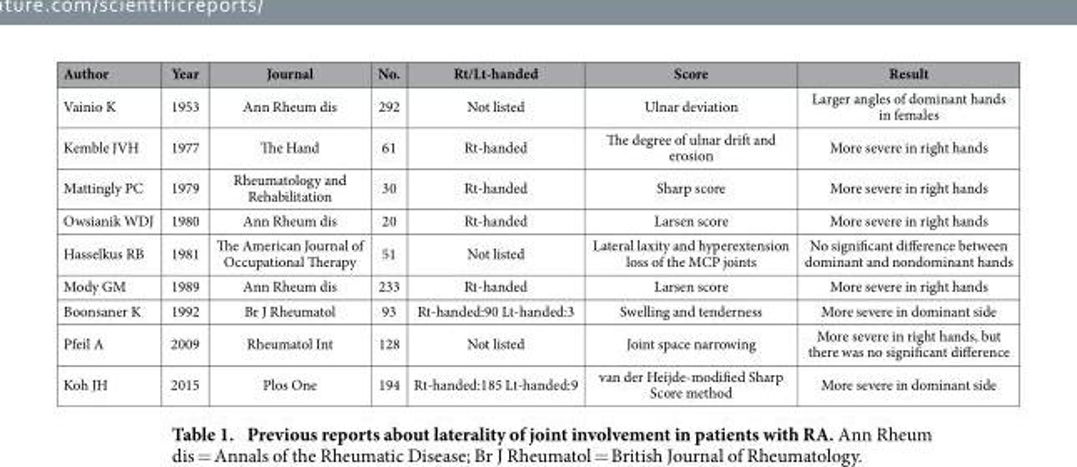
<table><thead><tr><td>Author</td><td>Year</td><td>Journal</td><td>No.</td><td>Rt/Lt-handed</td><td>Score</td><td>Result</td></tr></thead><tbody><tr><td>Vainio K</td><td>1953</td><td>Ann Rheum dis</td><td>292</td><td>Not listed</td><td>Ulnar deviation</td><td>Larger angles of dominant hands in females</td></tr><tr><td>Kemble JVH</td><td>1977</td><td>The Hand</td><td>61</td><td>Rt-handed</td><td>The degree of ulnar drift and erosion</td><td>More severe in right hands</td></tr><tr><td>Mattingly PC</td><td>1979</td><td>Rheumatology and Rehabilitation</td><td>30</td><td>Rt-handed</td><td>Sharp score</td><td>More severe in right hands</td></tr><tr><td>Owsianik WDJ</td><td>1980</td><td>Ann Rheum dis</td><td>20</td><td>Rt-handed</td><td>Larsen score</td><td>More severe in right hands</td></tr><tr><td>Hasselkus RB</td><td>1981</td><td>The American Journal of Occupational Therapy</td><td>51</td><td>Not listed</td><td>Lateral laxity and hyperextension loss of the MCP joints</td><td>No significant difference between dominant and nondominant hands</td></tr><tr><td>Mody GM</td><td>1989</td><td>Ann Rheum dis</td><td>233</td><td>Rt-handed</td><td>Larsen score</td><td>More severe in right hands</td></tr><tr><td>Boonsaner K</td><td>1992</td><td>Br J Rheumatol</td><td>93</td><td>Rt-handed:90 Lt-handed:3</td><td>Swelling and tenderness</td><td>More severe in dominant side</td></tr><tr><td>Pfeil A</td><td>2009</td><td>Rheumatol Int</td><td>128</td><td>Not listed</td><td>Joint space narrowing</td><td>More severe in right hands, but there was no significant difference</td></tr><tr><td>Koh JH</td><td>2015</td><td>Plos One</td><td>194</td><td>Rt-handed:185 Lt-handed:9</td><td>van der Heijde-modified Sharp Score method</td><td>More severe in dominant side</td></tr></tbody></table>